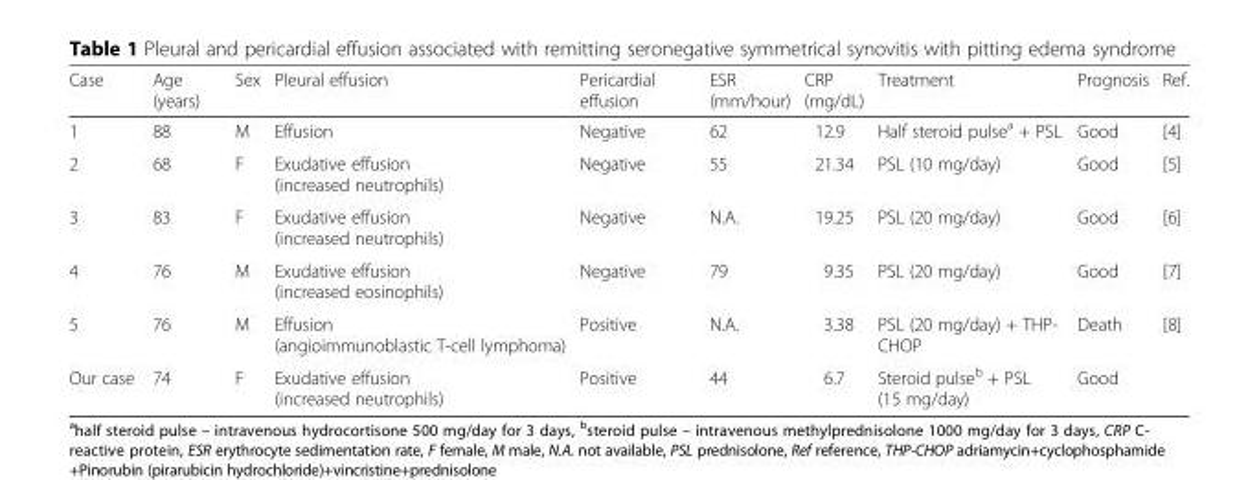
<table><thead><tr><td>Case</td><td>Age (years)</td><td>Sex</td><td>Pleural effusion</td><td>Pericardial effusion</td><td>ESR (mm/hour)</td><td>CRP (mg/dL)</td><td>Treatment</td><td>Prognosis</td><td>Ref.</td></tr></thead><tbody><tr><td>1</td><td>88</td><td>M</td><td>Effusion</td><td>Negative</td><td>62</td><td>12.9</td><td>Half steroid pulse<sup>a</sup> + PSL</td><td>Good</td><td>[4]</td></tr><tr><td>2</td><td>68</td><td>F</td><td>Exudative effusion (increased neutrophils)</td><td>Negative</td><td>55</td><td>21.34</td><td>PSL (10 mg/day)</td><td>Good</td><td>[5]</td></tr><tr><td>3</td><td>83</td><td>F</td><td>Exudative effusion (increased neutrophils)</td><td>Negative</td><td>N.A.</td><td>19.25</td><td>PSL (20 mg/day)</td><td>Good</td><td>[6]</td></tr><tr><td>4</td><td>76</td><td>M</td><td>Exudative effusion (increased eosinophils)</td><td>Negative</td><td>79</td><td>9.35</td><td>PSL (20 mg/day)</td><td>Good</td><td>[7]</td></tr><tr><td>5</td><td>76</td><td>M</td><td>Effusion (angioimmunoblastic T-cell lymphoma)</td><td>Positive</td><td>N.A.</td><td>3.38</td><td>PSL (20 mg/day) + THP- CHOP</td><td>Death</td><td>[8]</td></tr><tr><td>Our case</td><td>74</td><td>F</td><td>Exudative effusion (increased neutrophils)</td><td>Positive</td><td>44</td><td>6.7</td><td>Steroid pulse<sup>b</sup> + PSL (15 mg/day)</td><td>Good</td><td></td></tr></tbody></table>